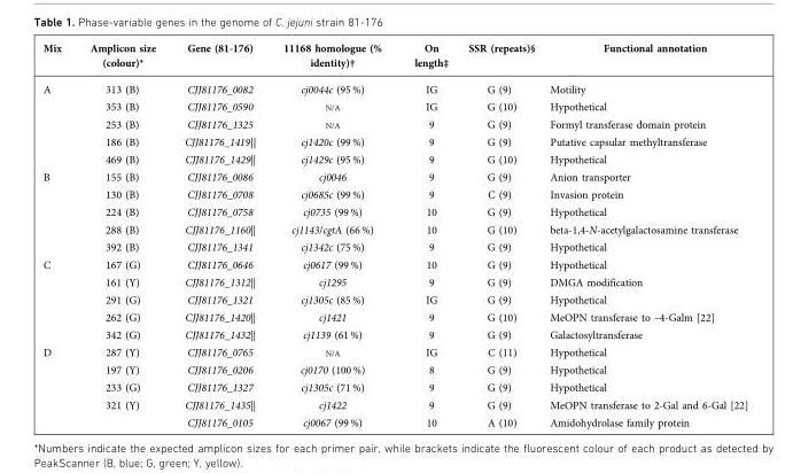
<table><thead><tr><td>Mix</td><td>Amplicon size (colour)*</td><td>Gene (81-176)</td><td>11168 homologue (% identity)†</td><td>On length‡</td><td>SSR (repeats)§</td><td>Functional annotation</td></tr></thead><tbody><tr><td rowspan="5">A</td><td>313 (B)</td><td>CJJ81176_0082</td><td>cj0044c (95 %)</td><td>IG</td><td>G (9)</td><td>Motility</td></tr><tr><td>353 (B)</td><td>CJJ81176_0590</td><td>N/A</td><td>IG</td><td>G (10)</td><td>Hypothetical</td></tr><tr><td>253 (B)</td><td>CJJ81176_1325</td><td>N/A</td><td>9</td><td>G (9)</td><td>Formyl transferase domain protein</td></tr><tr><td>186 (B)</td><td>CJJ81176_1419||</td><td>cj1420c (99 %)</td><td>9</td><td>G (9)</td><td>Putative capsular methyltransferase</td></tr><tr><td>469 (B)</td><td>CJJ81176_1429||</td><td>cj1429c (95 %)</td><td>9</td><td>G (10)</td><td>Hypothetical</td></tr><tr><td rowspan="5">B</td><td>155 (B)</td><td>CJJ81176_0086</td><td>cj0046</td><td>9</td><td>G (9)</td><td>Anion transporter</td></tr><tr><td>130 (B)</td><td>CJJ81176_0708</td><td>cj0685c (99 %)</td><td>9</td><td>C (9)</td><td>Invasion protein</td></tr><tr><td>224 (B)</td><td>CJJ81176_0758</td><td>cj0735 (99 %)</td><td>10</td><td>G (9)</td><td>Hypothetical</td></tr><tr><td>288 (B)</td><td>CJJ81176_1160||</td><td>cj1143/cgtA (66 %)</td><td>10</td><td>G (10)</td><td>beta-1,4-N-acetylgalactosamine transferase</td></tr><tr><td>392 (B)</td><td>CJJ81176_1341</td><td>cj1342c (75 %)</td><td>9</td><td>G (9)</td><td>Hypothetical</td></tr><tr><td rowspan="5">C</td><td>167 (G)</td><td>CJJ81176_0646</td><td>cj0617 (99 %)</td><td>10</td><td>G (9)</td><td>Hypothetical</td></tr><tr><td>161 (Y)</td><td>CJJ81176_1312||</td><td>cj1295</td><td>9</td><td>G (9)</td><td>DMGA modification</td></tr><tr><td>291 (G)</td><td>CJJ81176_1321</td><td>cj1305c (85 %)</td><td>IG</td><td>G (9)</td><td>Hypothetical</td></tr><tr><td>262 (G)</td><td>CJJ81176_1420||</td><td>cj1421</td><td>9</td><td>G (10)</td><td>MeOPN transferase to –4-Galm [22]</td></tr><tr><td>342 (G)</td><td>CJJ81176_1432||</td><td>cj1139 (61 %)</td><td>9</td><td>G (9)</td><td>Galactosyltransferase</td></tr><tr><td rowspan="5">D</td><td>287 (Y)</td><td>CJJ81176_0765</td><td>N/A</td><td>IG</td><td>C (11)</td><td>Hypothetical</td></tr><tr><td>197 (Y)</td><td>CJJ81176_0206</td><td>cj0170 (100 %)</td><td>8</td><td>G (9)</td><td>Hypothetical</td></tr><tr><td>233 (G)</td><td>CJJ81176_1327</td><td>cj1305c (71 %)</td><td>9</td><td>G (9)</td><td>Hypothetical</td></tr><tr><td>321 (Y)</td><td>CJJ81176_1435||</td><td>cj1422</td><td>9</td><td>G (9)</td><td>MeOPN transferase to 2-Gal and 6-Gal [22]</td></tr><tr><td></td><td>CJJ81176_0105</td><td>cj0067 (99 %)</td><td>10</td><td>A (10)</td><td>Amidohydrolase family protein</td></tr></tbody></table>